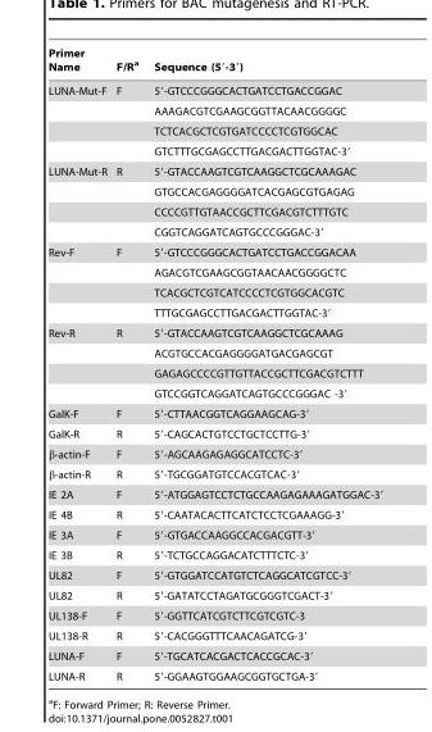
<table><thead><tr><td>Primer Name</td><td>F/R<sup>a</sup></td><td>Sequence (5′-3′)</td></tr></thead><tbody><tr><td rowspan="4">LUNA-Mut-F</td><td>F</td><td>5′-GTCCCGGGCACTGATCCTGACCGGAC</td></tr><tr><td></td><td>AAAGACGTCGAAGCGGTTACAACGGGGC</td></tr><tr><td></td><td>TCTCACGCTCGTGATCCCCTCGTGGCAC</td></tr><tr><td></td><td>GTCTTTGCGAGCCTTGACGACTTGGTAC-3′</td></tr><tr><td rowspan="4">LUNA-Mut-R</td><td>R</td><td>5′-GTACCAAGTCGTCAAGGCTCGCAAAGAC</td></tr><tr><td></td><td>GTGCCACGAGGGGATCACGAGCGTGAGAG</td></tr><tr><td></td><td>CCCCGTTGTAACCGCTTCGACGTCTTTGTC</td></tr><tr><td></td><td>CGGTCAGGATCAGTGCCCGGGAC-3′</td></tr><tr><td rowspan="4">Rev-F</td><td>F</td><td>5′-GTCCCGGGCACTGATCCTGACCGGACAA</td></tr><tr><td></td><td>AGACGTCGAAGCGGTAACAACGGGGCTC</td></tr><tr><td></td><td>TCACGCTCGTCATCCCCTCGTGGCACGTC</td></tr><tr><td></td><td>TTTGCGAGCCTTGACGACTTGGTAC-3′</td></tr><tr><td rowspan="4">Rev-R</td><td>R</td><td>5′-GTACCAAGTCGTCAAGGCTCGCAAAG</td></tr><tr><td></td><td>ACGTGCCACGAGGGGATGACGAGCGT</td></tr><tr><td></td><td>GAGAGCCCCGTTGTTACCGCTTCGACGTCTTT</td></tr><tr><td></td><td>GTCCGGTCAGGATCAGTGCCCGGGAC -3′</td></tr><tr><td>GalK-F</td><td>F</td><td>5′-CTTAACGGTCAGGAAGCAG-3′</td></tr><tr><td>GalK-R</td><td>R</td><td>5′-CAGCACTGTCCTGCTCCTTG-3′</td></tr><tr><td>β-actin-F</td><td>F</td><td>5′-AGCAAGAGAGGCATCCTC-3′</td></tr><tr><td>β-actin-R</td><td>R</td><td>5′-TGCGGATGTCCACGTCAC-3′</td></tr><tr><td>IE 2A</td><td>F</td><td>5′-ATGGAGTCCTCTGCCAAGAGAAAGATGGAC-3′</td></tr><tr><td>IE 4B</td><td>R</td><td>5′-CAATACACTTCATCTCCTCGAAAGG-3′</td></tr><tr><td>IE 3A</td><td>F</td><td>5′-GTGACCAAGGCCACGACGTT-3′</td></tr><tr><td>IE 3B</td><td>R</td><td>5′-TCTGCCAGGACATCTTTCTC-3′</td></tr><tr><td>UL82</td><td>F</td><td>5′-GTGGATCCATGTCTCAGGCATCGTCC-3′</td></tr><tr><td>UL82</td><td>R</td><td>5′-GATATCCTAGATGCGGGTCGACT-3′</td></tr><tr><td>UL138-F</td><td>F</td><td>5′-GGTTCATCGTCTTCGTCGTC-3</td></tr><tr><td>UL138-R</td><td>R</td><td>5′-CACGGGTTTCAACAGATCG-3′</td></tr><tr><td>LUNA-F</td><td>F</td><td>5′-TGCATCACGACTCACCGCAC-3′</td></tr><tr><td>LUNA-R</td><td>R</td><td>5′-GGAAGTGGAAGCGGTGCTGA-3′</td></tr></tbody></table>